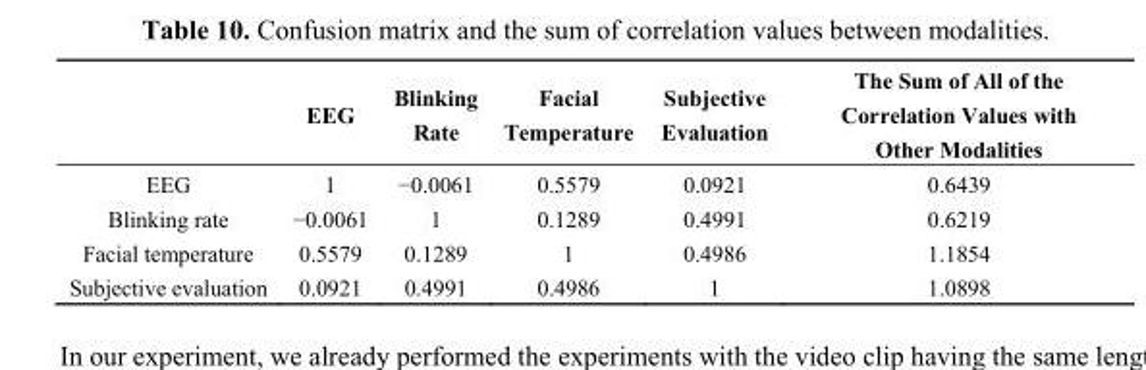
<table><thead><tr><td></td><td>EEG</td><td>Blinking Rate</td><td>Facial Temperature</td><td>Subjective Evaluation</td><td>The Sum of All of the Correlation Values with Other Modalities</td></tr></thead><tbody><tr><td>EEG</td><td>1</td><td>−0.0061</td><td>0.5579</td><td>0.0921</td><td>0.6439</td></tr><tr><td>Blinking rate</td><td>−0.0061</td><td>1</td><td>0.1289</td><td>0.4991</td><td>0.6219</td></tr><tr><td>Facial temperature</td><td>0.5579</td><td>0.1289</td><td>1</td><td>0.4986</td><td>1.1854</td></tr><tr><td>Subjective evaluation</td><td>0.0921</td><td>0.4991</td><td>0.4986</td><td>1</td><td>1.0898</td></tr></tbody></table>